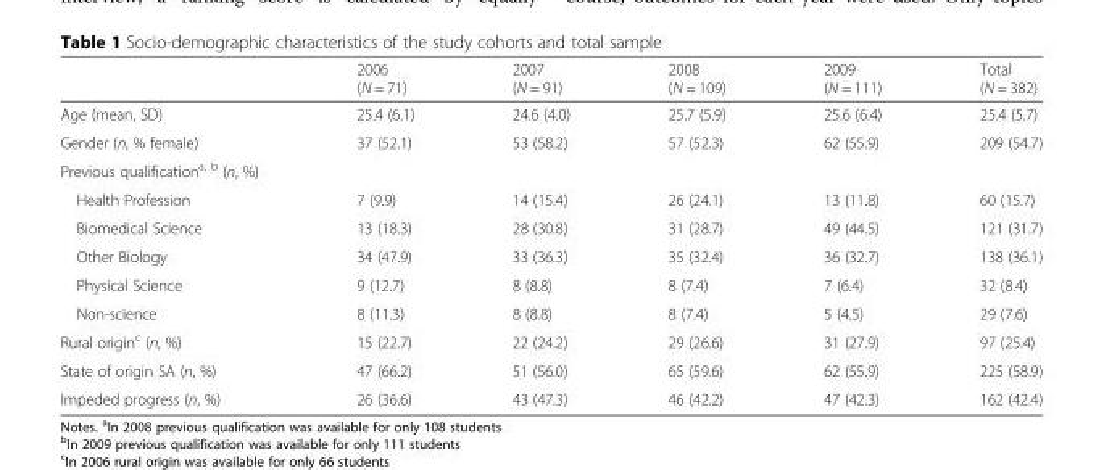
<table><thead><tr><td></td><td>2006 (N = 71)</td><td>2007 (N = 91)</td><td>2008 (N = 109)</td><td>2009 (N = 111)</td><td>Total (N = 382)</td></tr></thead><tbody><tr><td>Age (mean, SD)</td><td>25.4 (6.1)</td><td>24.6 (4.0)</td><td>25.7 (5.9)</td><td>25.6 (6.4)</td><td>25.4 (5.7)</td></tr><tr><td>Gender (n, % female)</td><td>37 (52.1)</td><td>53 (58.2)</td><td>57 (52.3)</td><td>62 (55.9)</td><td>209 (54.7)</td></tr><tr><td colspan="6">Previous qualification<sup>a, b</sup> (n, %)</td></tr><tr><td>Health Profession</td><td>7 (9.9)</td><td>14 (15.4)</td><td>26 (24.1)</td><td>13 (11.8)</td><td>60 (15.7)</td></tr><tr><td>Biomedical Science</td><td>13 (18.3)</td><td>28 (30.8)</td><td>31 (28.7)</td><td>49 (44.5)</td><td>121 (31.7)</td></tr><tr><td>Other Biology</td><td>34 (47.9)</td><td>33 (36.3)</td><td>35 (32.4)</td><td>36 (32.7)</td><td>138 (36.1)</td></tr><tr><td>Physical Science</td><td>9 (12.7)</td><td>8 (8.8)</td><td>8 (7.4)</td><td>7 (6.4)</td><td>32 (8.4)</td></tr><tr><td>Non-science</td><td>8 (11.3)</td><td>8 (8.8)</td><td>8 (7.4)</td><td>5 (4.5)</td><td>29 (7.6)</td></tr><tr><td>Rural origin<sup>c</sup> (n, %)</td><td>15 (22.7)</td><td>22 (24.2)</td><td>29 (26.6)</td><td>31 (27.9)</td><td>97 (25.4)</td></tr><tr><td>State of origin SA (n, %)</td><td>47 (66.2)</td><td>51 (56.0)</td><td>65 (59.6)</td><td>62 (55.9)</td><td>225 (58.9)</td></tr><tr><td>Impeded progress (n, %)</td><td>26 (36.6)</td><td>43 (47.3)</td><td>46 (42.2)</td><td>47 (42.3)</td><td>162 (42.4)</td></tr></tbody></table>